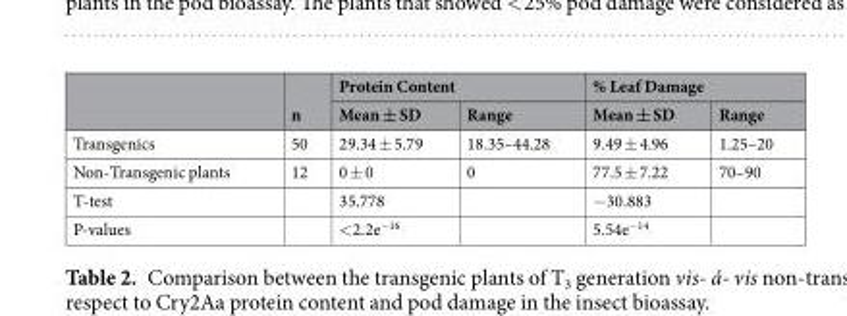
<table><thead><tr><td rowspan="2"></td><td rowspan="2">n</td><td colspan="2">Protein Content</td><td colspan="2">% Leaf Damage</td></tr><tr><td>Mean ± SD</td><td>Range</td><td>Mean ± SD</td><td>Range</td></tr></thead><tbody><tr><td>Transgenics</td><td>50</td><td>29.34 ± 5.79</td><td>18.35–44.28</td><td>9.49 ± 4.96</td><td>1.25–20</td></tr><tr><td>Non-Transgenic plants</td><td>12</td><td>0 ± 0</td><td>0</td><td>77.5 ± 7.22</td><td>70–90</td></tr><tr><td>T-test</td><td></td><td>35.778</td><td></td><td>−30.883</td><td></td></tr><tr><td>P-values</td><td></td><td>&lt;2.2e<sup>−16</sup></td><td></td><td>5.54e<sup>−14</sup></td><td></td></tr></tbody></table>